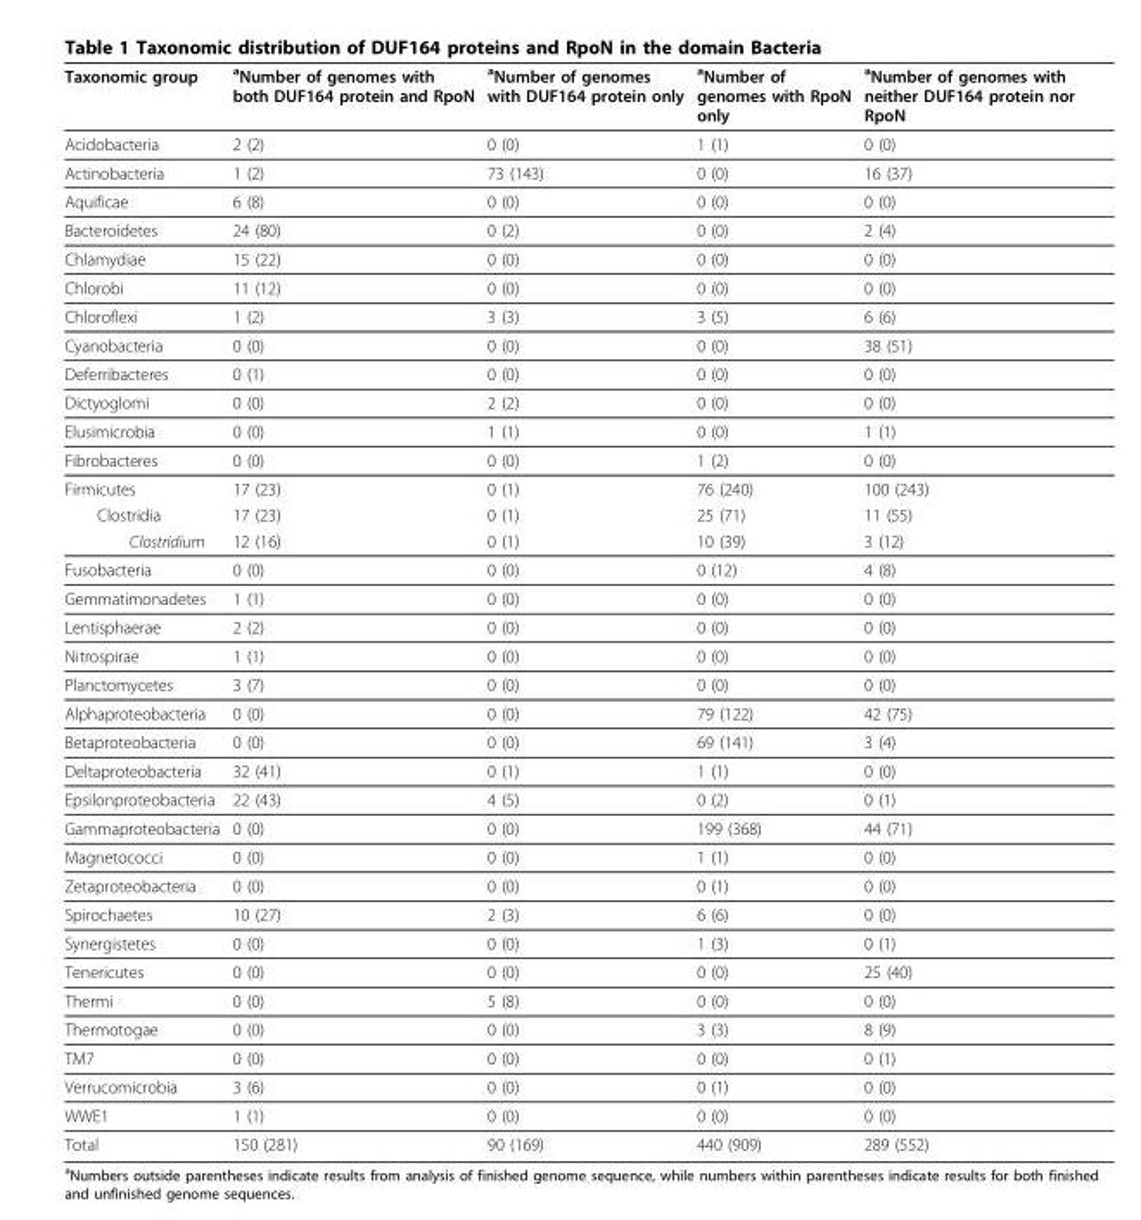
<table><thead><tr><td>Taxonomic group</td><td><sup>a</sup>Number of genomes with both DUF164 protein and RpoN</td><td><sup>a</sup>Number of genomes with DUF164 protein only</td><td><sup>a</sup>Number of genomes with RpoN only</td><td><sup>a</sup>Number of genomes with neither DUF164 protein nor RpoN</td></tr></thead><tbody><tr><td>Acidobacteria</td><td>2 (2)</td><td>0 (0)</td><td>1 (1)</td><td>0 (0)</td></tr><tr><td>Actinobacteria</td><td>1 (2)</td><td>73 (143)</td><td>0 (0)</td><td>16 (37)</td></tr><tr><td>Aquificae</td><td>6 (8)</td><td>0 (0)</td><td>0 (0)</td><td>0 (0)</td></tr><tr><td>Bacteroidetes</td><td>24 (80)</td><td>0 (2)</td><td>0 (0)</td><td>2 (4)</td></tr><tr><td>Chlamydiae</td><td>15 (22)</td><td>0 (0)</td><td>0 (0)</td><td>0 (0)</td></tr><tr><td>Chlorobi</td><td>11 (12)</td><td>0 (0)</td><td>0 (0)</td><td>0 (0)</td></tr><tr><td>Chloroflexi</td><td>1 (2)</td><td>3 (3)</td><td>3 (5)</td><td>6 (6)</td></tr><tr><td>Cyanobacteria</td><td>0 (0)</td><td>0 (0)</td><td>0 (0)</td><td>38 (51)</td></tr><tr><td>Deferribacteres</td><td>0 (1)</td><td>0 (0)</td><td>0 (0)</td><td>0 (0)</td></tr><tr><td>Dictyoglomi</td><td>0 (0)</td><td>2 (2)</td><td>0 (0)</td><td>0 (0)</td></tr><tr><td>Elusimicrobia</td><td>0 (0)</td><td>1 (1)</td><td>0 (0)</td><td>1 (1)</td></tr><tr><td>Fibrobacteres</td><td>0 (0)</td><td>0 (0)</td><td>1 (2)</td><td>0 (0)</td></tr><tr><td>Firmicutes</td><td>17 (23)</td><td>0 (1)</td><td>76 (240)</td><td>100 (243)</td></tr><tr><td>Clostridia</td><td>17 (23)</td><td>0 (1)</td><td>25 (71)</td><td>11 (55)</td></tr><tr><td>Clostridium</td><td>12 (16)</td><td>0 (1)</td><td>10 (39)</td><td>3 (12)</td></tr><tr><td>Fusobacteria</td><td>0 (0)</td><td>0 (0)</td><td>0 (12)</td><td>4 (8)</td></tr><tr><td>Gemmatimonadetes</td><td>1 (1)</td><td>0 (0)</td><td>0 (0)</td><td>0 (0)</td></tr><tr><td>Lentisphaerae</td><td>2 (2)</td><td>0 (0)</td><td>0 (0)</td><td>0 (0)</td></tr><tr><td>Nitrospirae</td><td>1 (1)</td><td>0 (0)</td><td>0 (0)</td><td>0 (0)</td></tr><tr><td>Planctomycetes</td><td>3 (7)</td><td>0 (0)</td><td>0 (0)</td><td>0 (0)</td></tr><tr><td>Alphaproteobacteria</td><td>0 (0)</td><td>0 (0)</td><td>79 (122)</td><td>42 (75)</td></tr><tr><td>Betaproteobacteria</td><td>0 (0)</td><td>0 (0)</td><td>69 (141)</td><td>3 (4)</td></tr><tr><td>Deltaproteobacteria</td><td>32 (41)</td><td>0 (1)</td><td>1 (1)</td><td>0 (0)</td></tr><tr><td>Epsilonproteobacteria</td><td>22 (43)</td><td>4 (5)</td><td>0 (2)</td><td>0 (1)</td></tr><tr><td>Gammaproteobacteria</td><td>0 (0)</td><td>0 (0)</td><td>199 (368)</td><td>44 (71)</td></tr><tr><td>Magnetococci</td><td>0 (0)</td><td>0 (0)</td><td>1 (1)</td><td>0 (0)</td></tr><tr><td>Zetaproteobacteria</td><td>0 (0)</td><td>0 (0)</td><td>0 (1)</td><td>0 (0)</td></tr><tr><td>Spirochaetes</td><td>10 (27)</td><td>2 (3)</td><td>6 (6)</td><td>0 (0)</td></tr><tr><td>Synergistetes</td><td>0 (0)</td><td>0 (0)</td><td>1 (3)</td><td>0 (1)</td></tr><tr><td>Tenericutes</td><td>0 (0)</td><td>0 (0)</td><td>0 (0)</td><td>25 (40)</td></tr><tr><td>Thermi</td><td>0 (0)</td><td>5 (8)</td><td>0 (0)</td><td>0 (0)</td></tr><tr><td>Thermotogae</td><td>0 (0)</td><td>0 (0)</td><td>3 (3)</td><td>8 (9)</td></tr><tr><td>TM7</td><td>0 (0)</td><td>0 (0)</td><td>0 (0)</td><td>0 (1)</td></tr><tr><td>Verrucomicrobia</td><td>3 (6)</td><td>0 (0)</td><td>0 (1)</td><td>0 (0)</td></tr><tr><td>WWE1</td><td>1 (1)</td><td>0 (0)</td><td>0 (0)</td><td>0 (0)</td></tr><tr><td>Total</td><td>150 (281)</td><td>90 (169)</td><td>440 (909)</td><td>289 (552)</td></tr></tbody></table>